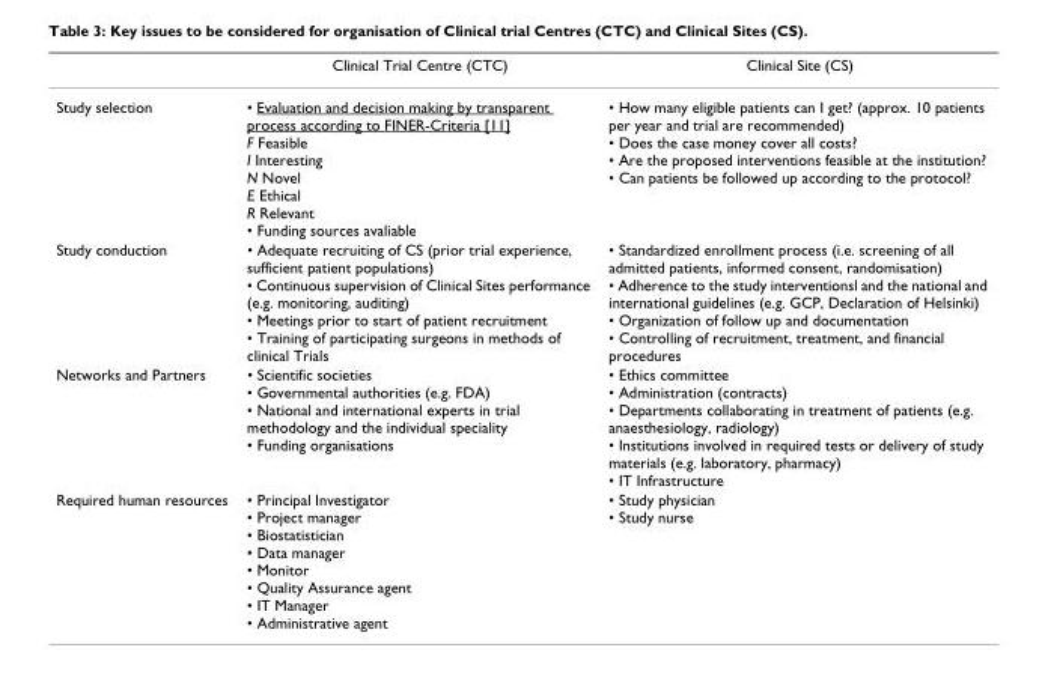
<table><thead><tr><td></td><td>Clinical Trial Centre (CTC)</td><td>Clinical Site (CS)</td></tr></thead><tbody><tr><td>Study selection</td><td>• Evaluation and decision making by transparent process according to FINER-Criteria [11] F Feasible I Interesting N Novel E Ethical R Relevant • Funding sources avaliable</td><td>• How many eligible patients can I get? (approx. 10 patients per year and trial are recommended) • Does the case money cover all costs? • Are the proposed interventions feasible at the institution? • Can patients be followed up according to the protocol?</td></tr><tr><td>Study conduction</td><td>• Adequate recruiting of CS (prior trial experience, sufficient patient populations) • Continuous supervision of Clinical Sites performance (e.g. monitoring, auditing) • Meetings prior to start of patient recruitment • Training of participating surgeons in methods of clinical Trials</td><td>• Standardized enrollment process (i.e. screening of all admitted patients, informed consent, randomisation) • Adherence to the study interventionsl and the national and international guidelines (e.g. GCP, Declaration of Helsinki) • Organization of follow up and documentation • Controlling of recruitment, treatment, and financial procedures</td></tr><tr><td>Networks and Partners</td><td>• Scientific societies • Governmental authorities (e.g. FDA) • National and international experts in trial methodology and the individual speciality • Funding organisations</td><td>• Ethics committee • Administration (contracts) • Departments collaborating in treatment of patients (e.g. anaesthesiology, radiology) • Institutions involved in required tests or delivery of study materials (e.g. laboratory, pharmacy) • IT Infrastructure</td></tr><tr><td>Required human resources</td><td>• Principal Investigator • Project manager • Biostatistician • Data manager • Monitor • Quality Assurance agent • IT Manager • Administrative agent</td><td>• Study physician • Study nurse</td></tr></tbody></table>